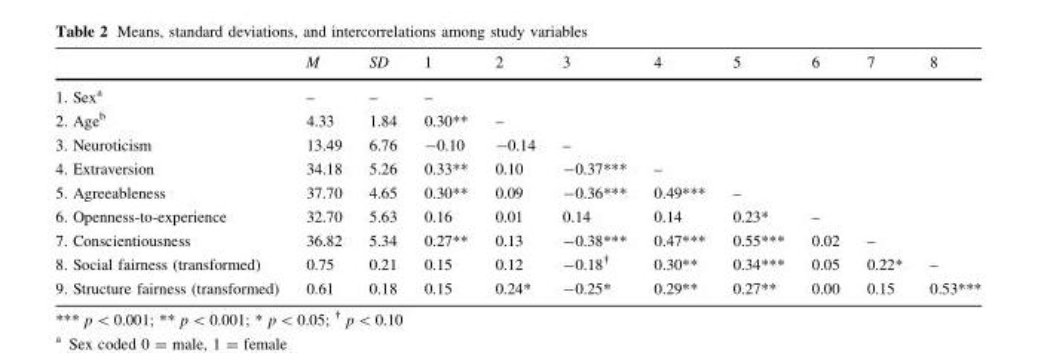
<table><thead><tr><td></td><td>M</td><td>SD</td><td>1</td><td>2</td><td>3</td><td>4</td><td>5</td><td>6</td><td>7</td><td>8</td></tr></thead><tbody><tr><td>1. Sex<sup>a</sup></td><td>–</td><td>–</td><td>–</td><td></td><td></td><td></td><td></td><td></td><td></td><td></td></tr><tr><td>2. Age<sup>b</sup></td><td>4.33</td><td>1.84</td><td>0.30**</td><td>–</td><td></td><td></td><td></td><td></td><td></td><td></td></tr><tr><td>3. Neuroticism</td><td>13.49</td><td>6.76</td><td>-0.10</td><td>-0.14</td><td>–</td><td></td><td></td><td></td><td></td><td></td></tr><tr><td>4. Extraversion</td><td>34.18</td><td>5.26</td><td>0.33**</td><td>0.10</td><td>-0.37***</td><td>–</td><td></td><td></td><td></td><td></td></tr><tr><td>5. Agreeableness</td><td>37.70</td><td>4.65</td><td>0.30**</td><td>0.09</td><td>-0.36***</td><td>0.49***</td><td>–</td><td></td><td></td><td></td></tr><tr><td>6. Openness-to-experience</td><td>32.70</td><td>5.63</td><td>0.16</td><td>0.01</td><td>0.14</td><td>0.14</td><td>0.23*</td><td>–</td><td></td><td></td></tr><tr><td>7. Conscientiousness</td><td>36.82</td><td>5.34</td><td>0.27**</td><td>0.13</td><td>-0.38***</td><td>0.47***</td><td>0.55***</td><td>0.02</td><td>–</td><td></td></tr><tr><td>8. Social fairness (transformed)</td><td>0.75</td><td>0.21</td><td>0.15</td><td>0.12</td><td>-0.18<sup>†</sup></td><td>0.30**</td><td>0.34***</td><td>0.05</td><td>0.22*</td><td>–</td></tr><tr><td>9. Structure fairness (transformed)</td><td>0.61</td><td>0.18</td><td>0.15</td><td>0.24*</td><td>-0.25*</td><td>0.29**</td><td>0.27**</td><td>0.00</td><td>0.15</td><td>0.53***</td></tr></tbody></table>